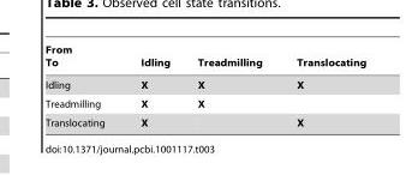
<table><thead><tr><td>From To</td><td>Idling</td><td>Treadmilling</td><td>Translocating</td></tr></thead><tbody><tr><td>Idling</td><td>X</td><td>X</td><td>X</td></tr><tr><td>Treadmilling</td><td>X</td><td>X</td><td></td></tr><tr><td>Translocating</td><td>X</td><td></td><td>X</td></tr></tbody></table>